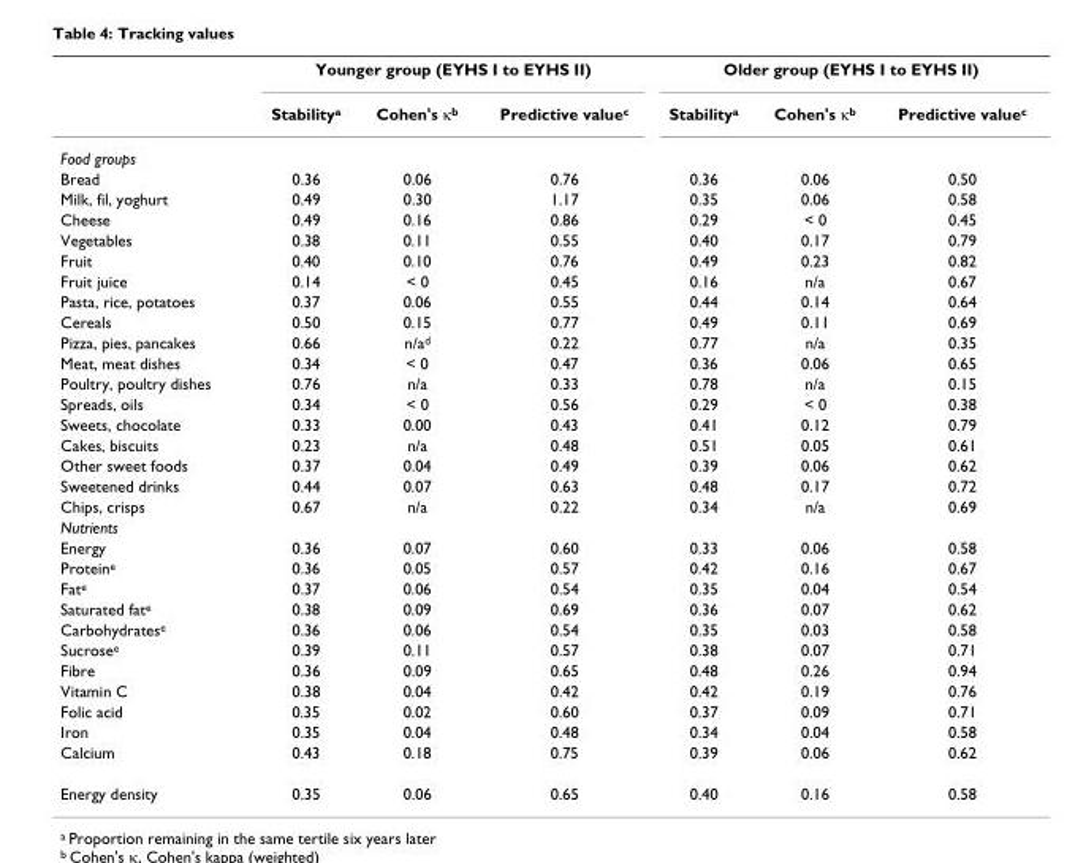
<table><thead><tr><td rowspan="2"></td><td colspan="3">Younger group (EYHS I to EYHS II)</td><td colspan="3">Older group (EYHS I to EYHS II)</td></tr><tr><td>Stability<sup>a</sup></td><td>Cohen&#x27;s κ<sup>b</sup></td><td>Predictive value<sup>c</sup></td><td>Stability<sup>a</sup></td><td>Cohen&#x27;s κ<sup>b</sup></td><td>Predictive value<sup>c</sup></td></tr></thead><tbody><tr><td colspan="7">Food groups</td></tr><tr><td>Bread</td><td>0.36</td><td>0.06</td><td>0.76</td><td>0.36</td><td>0.06</td><td>0.50</td></tr><tr><td>Milk, fil, yoghurt</td><td>0.49</td><td>0.30</td><td>1.17</td><td>0.35</td><td>0.06</td><td>0.58</td></tr><tr><td>Cheese</td><td>0.49</td><td>0.16</td><td>0.86</td><td>0.29</td><td>&lt; 0</td><td>0.45</td></tr><tr><td>Vegetables</td><td>0.38</td><td>0.11</td><td>0.55</td><td>0.40</td><td>0.17</td><td>0.79</td></tr><tr><td>Fruit</td><td>0.40</td><td>0.10</td><td>0.76</td><td>0.49</td><td>0.23</td><td>0.82</td></tr><tr><td>Fruit juice</td><td>0.14</td><td>&lt; 0</td><td>0.45</td><td>0.16</td><td>n/a</td><td>0.67</td></tr><tr><td>Pasta, rice, potatoes</td><td>0.37</td><td>0.06</td><td>0.55</td><td>0.44</td><td>0.14</td><td>0.64</td></tr><tr><td>Cereals</td><td>0.50</td><td>0.15</td><td>0.77</td><td>0.49</td><td>0.11</td><td>0.69</td></tr><tr><td>Pizza, pies, pancakes</td><td>0.66</td><td>n/a<sup>d</sup></td><td>0.22</td><td>0.77</td><td>n/a</td><td>0.35</td></tr><tr><td>Meat, meat dishes</td><td>0.34</td><td>&lt; 0</td><td>0.47</td><td>0.36</td><td>0.06</td><td>0.65</td></tr><tr><td>Poultry, poultry dishes</td><td>0.76</td><td>n/a</td><td>0.33</td><td>0.78</td><td>n/a</td><td>0.15</td></tr><tr><td>Spreads, oils</td><td>0.34</td><td>&lt; 0</td><td>0.56</td><td>0.29</td><td>&lt; 0</td><td>0.38</td></tr><tr><td>Sweets, chocolate</td><td>0.33</td><td>0.00</td><td>0.43</td><td>0.41</td><td>0.12</td><td>0.79</td></tr><tr><td>Cakes, biscuits</td><td>0.23</td><td>n/a</td><td>0.48</td><td>0.51</td><td>0.05</td><td>0.61</td></tr><tr><td>Other sweet foods</td><td>0.37</td><td>0.04</td><td>0.49</td><td>0.39</td><td>0.06</td><td>0.62</td></tr><tr><td>Sweetened drinks</td><td>0.44</td><td>0.07</td><td>0.63</td><td>0.48</td><td>0.17</td><td>0.72</td></tr><tr><td>Chips, crisps</td><td>0.67</td><td>n/a</td><td>0.22</td><td>0.34</td><td>n/a</td><td>0.69</td></tr><tr><td colspan="7">Nutrients</td></tr><tr><td>Energy</td><td>0.36</td><td>0.07</td><td>0.60</td><td>0.33</td><td>0.06</td><td>0.58</td></tr><tr><td>Protein<sup>e</sup></td><td>0.36</td><td>0.05</td><td>0.57</td><td>0.42</td><td>0.16</td><td>0.67</td></tr><tr><td>Fat<sup>e</sup></td><td>0.37</td><td>0.06</td><td>0.54</td><td>0.35</td><td>0.04</td><td>0.54</td></tr><tr><td>Saturated fat<sup>e</sup></td><td>0.38</td><td>0.09</td><td>0.69</td><td>0.36</td><td>0.07</td><td>0.62</td></tr><tr><td>Carbohydrates<sup>e</sup></td><td>0.36</td><td>0.06</td><td>0.54</td><td>0.35</td><td>0.03</td><td>0.58</td></tr><tr><td>Sucrose<sup>e</sup></td><td>0.39</td><td>0.11</td><td>0.57</td><td>0.38</td><td>0.07</td><td>0.71</td></tr><tr><td>Fibre</td><td>0.36</td><td>0.09</td><td>0.65</td><td>0.48</td><td>0.26</td><td>0.94</td></tr><tr><td>Vitamin C</td><td>0.38</td><td>0.04</td><td>0.42</td><td>0.42</td><td>0.19</td><td>0.76</td></tr><tr><td>Folic acid</td><td>0.35</td><td>0.02</td><td>0.60</td><td>0.37</td><td>0.09</td><td>0.71</td></tr><tr><td>Iron</td><td>0.35</td><td>0.04</td><td>0.48</td><td>0.34</td><td>0.04</td><td>0.58</td></tr><tr><td>Calcium</td><td>0.43</td><td>0.18</td><td>0.75</td><td>0.39</td><td>0.06</td><td>0.62</td></tr><tr><td>Energy density</td><td>0.35</td><td>0.06</td><td>0.65</td><td>0.40</td><td>0.16</td><td>0.58</td></tr></tbody></table>